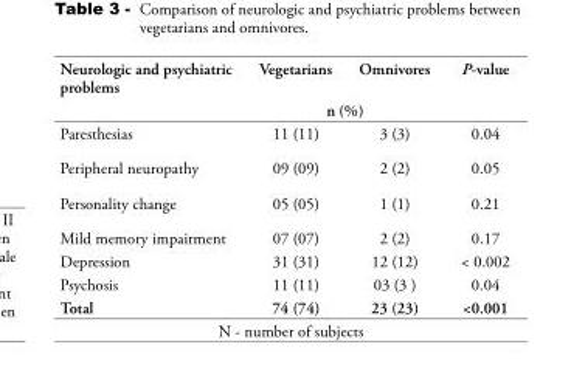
<table><thead><tr><td rowspan="2">Neurologic and psychiatric problems</td><td>Vegetarians</td><td>Omnivores</td><td rowspan="2">P-value</td></tr><tr><td colspan="2">n (%)</td></tr></thead><tbody><tr><td>Paresthesias</td><td>11 (11)</td><td>3 (3)</td><td>0.04</td></tr><tr><td>Peripheral neuropathy</td><td>09 (09)</td><td>2 (2)</td><td>0.05</td></tr><tr><td>Personality change</td><td>05 (05)</td><td>1 (1)</td><td>0.21</td></tr><tr><td>Mild memory impairment</td><td>07 (07)</td><td>2 (2)</td><td>0.17</td></tr><tr><td>Depression</td><td>31 (31)</td><td>12 (12)</td><td>&lt; 0.002</td></tr><tr><td>Psychosis</td><td>11 (11)</td><td>03 (3 )</td><td>0.04</td></tr><tr><td>Total</td><td>74 (74)</td><td>23 (23)</td><td>&lt;0.001</td></tr></tbody></table>